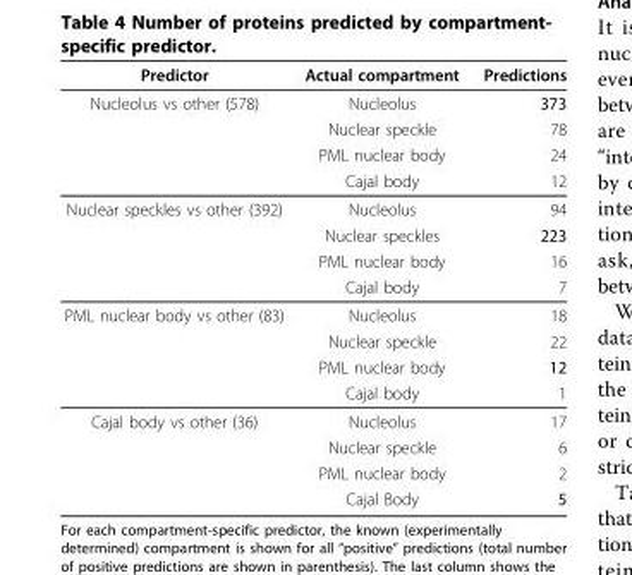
<table><thead><tr><td>Predictor</td><td>Actual compartment</td><td>Predictions</td></tr></thead><tbody><tr><td rowspan="4">Nucleolus vs other (578)</td><td>Nucleolus</td><td>373</td></tr><tr><td>Nuclear speckle</td><td>78</td></tr><tr><td>PML nuclear body</td><td>24</td></tr><tr><td>Cajal body</td><td>12</td></tr><tr><td rowspan="4">Nuclear speckles vs other (392)</td><td>Nucleolus</td><td>94</td></tr><tr><td>Nuclear speckles</td><td>223</td></tr><tr><td>PML nuclear body</td><td>16</td></tr><tr><td>Cajal body</td><td>7</td></tr><tr><td rowspan="4">PML nuclear body vs other (83)</td><td>Nucleolus</td><td>18</td></tr><tr><td>Nuclear speckle</td><td>22</td></tr><tr><td>PML nuclear body</td><td>12</td></tr><tr><td>Cajal body</td><td>1</td></tr><tr><td rowspan="4">Cajal body vs other (36)</td><td>Nucleolus</td><td>17</td></tr><tr><td>Nuclear speckle</td><td>6</td></tr><tr><td>PML nuclear body</td><td>2</td></tr><tr><td>Cajal Body</td><td>5</td></tr></tbody></table>